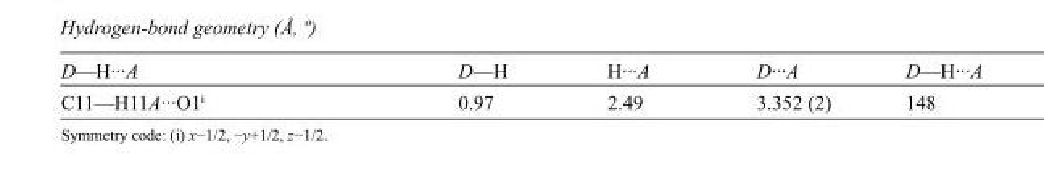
<table><tbody><tr><td>D—H···A</td><td>D—H</td><td>H···A</td><td>D···A</td><td>D—H···A</td></tr><tr><td>C11—H11A···O1<sup>i</sup></td><td>0.97</td><td>2.49</td><td>3.352 (2)</td><td>148</td></tr></tbody></table>